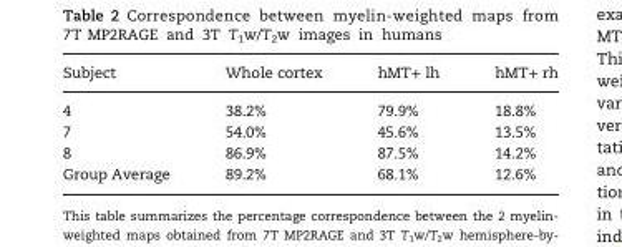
<table><thead><tr><td>Subject</td><td>Whole cortex</td><td>hMT+ lh</td><td>hMT+ rh</td></tr></thead><tbody><tr><td>4</td><td>38.2%</td><td>79.9%</td><td>18.8%</td></tr><tr><td>7</td><td>54.0%</td><td>45.6%</td><td>13.5%</td></tr><tr><td>8</td><td>86.9%</td><td>87.5%</td><td>14.2%</td></tr><tr><td>Group Average</td><td>89.2%</td><td>68.1%</td><td>12.6%</td></tr></tbody></table>